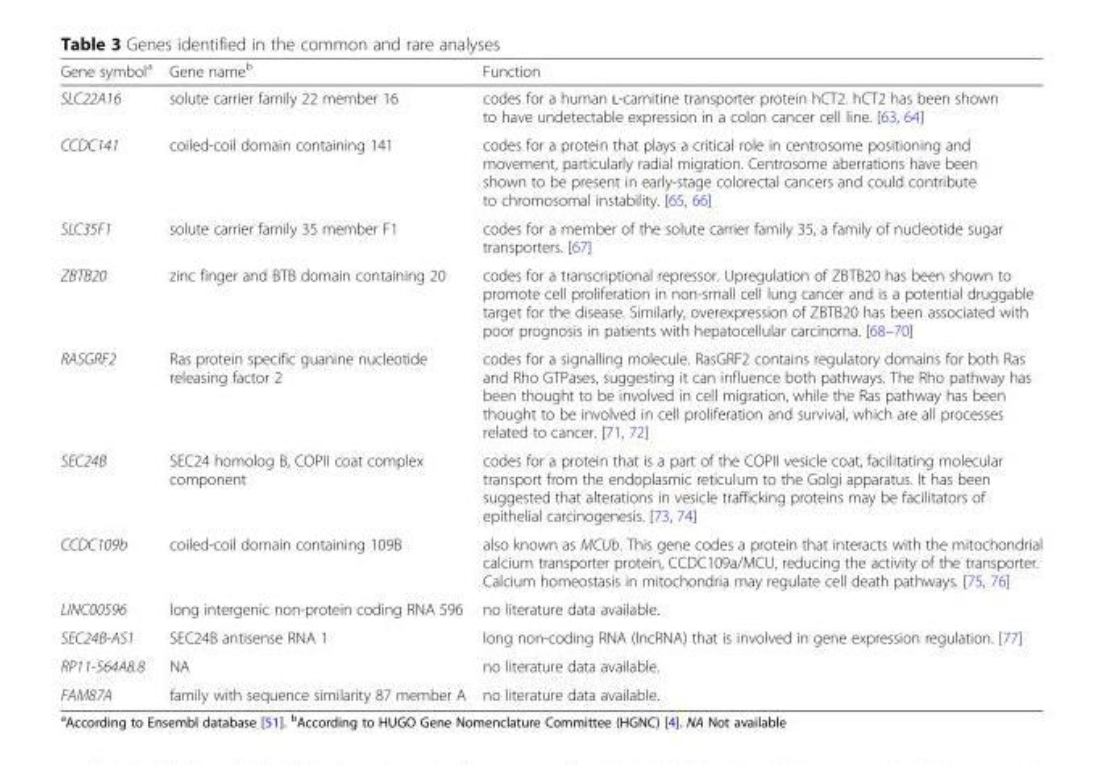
<table><thead><tr><td>Gene symbol<sup>a</sup></td><td>Gene name<sup>b</sup></td><td>Function</td></tr></thead><tbody><tr><td>SLC22A16</td><td>solute carrier family 22 member 16</td><td>codes for a human ʟ-carnitine transporter protein hCT2. hCT2 has been shown to have undetectable expression in a colon cancer cell line. [63, 64]</td></tr><tr><td>CCDC141</td><td>coiled-coil domain containing 141</td><td>codes for a protein that plays a critical role in centrosome positioning and movement, particularly radial migration. Centrosome aberrations have been shown to be present in early-stage colorectal cancers and could contribute to chromosomal instability. [65, 66]</td></tr><tr><td>SLC35F1</td><td>solute carrier family 35 member F1</td><td>codes for a member of the solute carrier family 35, a family of nucleotide sugar transporters. [67]</td></tr><tr><td>ZBTB20</td><td>zinc finger and BTB domain containing 20</td><td>codes for a transcriptional repressor. Upregulation of ZBTB20 has been shown to promote cell proliferation in non-small cell lung cancer and is a potential druggable target for the disease. Similarly, overexpression of ZBTB20 has been associated with poor prognosis in patients with hepatocellular carcinoma. [68–70]</td></tr><tr><td>RASGRF2</td><td>Ras protein specific guanine nucleotide releasing factor 2</td><td>codes for a signalling molecule. RasGRF2 contains regulatory domains for both Ras and Rho GTPases, suggesting it can influence both pathways. The Rho pathway has been thought to be involved in cell migration, while the Ras pathway has been thought to be involved in cell proliferation and survival, which are all processes related to cancer. [71, 72]</td></tr><tr><td>SEC24B</td><td>SEC24 homolog B, COPII coat complex component</td><td>codes for a protein that is a part of the COPII vesicle coat, facilitating molecular transport from the endoplasmic reticulum to the Golgi apparatus. It has been suggested that alterations in vesicle trafficking proteins may be facilitators of epithelial carcinogenesis. [73, 74]</td></tr><tr><td>CCDC109b</td><td>coiled-coil domain containing 109B</td><td>also known as MCUb. This gene codes a protein that interacts with the mitochondrial calcium transporter protein, CCDC109a/MCU, reducing the activity of the transporter. Calcium homeostasis in mitochondria may regulate cell death pathways. [75, 76]</td></tr><tr><td>LINC00596</td><td>long intergenic non-protein coding RNA 596</td><td>no literature data available.</td></tr><tr><td>SEC24B-AS1</td><td>SEC24B antisense RNA 1</td><td>long non-coding RNA (lncRNA) that is involved in gene expression regulation. [77]</td></tr><tr><td>RP11-564A8.8</td><td>NA</td><td>no literature data available.</td></tr><tr><td>FAM87A</td><td>family with sequence similarity 87 member A</td><td>no literature data available.</td></tr></tbody></table>